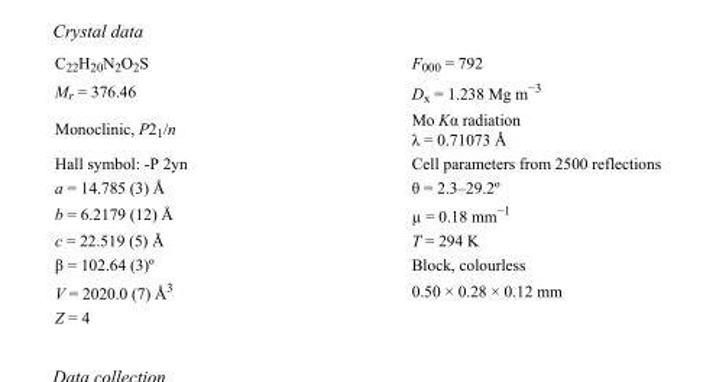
<table><tbody><tr><td>C<sub>22</sub>H<sub>20</sub>N<sub>2</sub>O<sub>2</sub>S</td><td>F000 = 792</td></tr><tr><td>M<sub>r</sub> = 376.46</td><td>D<sub>x</sub> = 1.238 Mg m<sup>−3</sup></td></tr><tr><td>Monoclinic, P2<sub>1</sub>/n</td><td>Mo Kα radiation λ = 0.71073 Å</td></tr><tr><td>Hall symbol: -P 2yn</td><td>Cell parameters from 2500 reflections</td></tr><tr><td>a = 14.785 (3) Å</td><td>θ = 2.3–29.2º</td></tr><tr><td>b = 6.2179 (12) Å</td><td>µ = 0.18 mm<sup>−1</sup></td></tr><tr><td>c = 22.519 (5) Å</td><td>T = 294 K</td></tr><tr><td>β = 102.64 (3)º</td><td>Block, colourless</td></tr><tr><td>V = 2020.0 (7) Å<sup>3</sup></td><td>0.50 × 0.28 × 0.12 mm</td></tr><tr><td>Z = 4</td><td></td></tr></tbody></table>